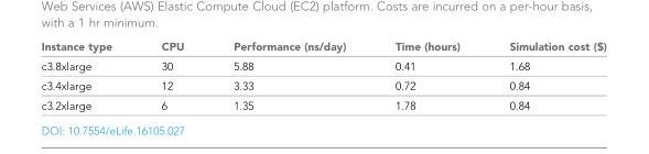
<table><thead><tr><td>Instance type</td><td>CPU</td><td>Performance (ns/day)</td><td>Time (hours)</td><td>Simulation cost ($)</td></tr></thead><tbody><tr><td>c3.8xlarge</td><td>30</td><td>5.88</td><td>0.41</td><td>1.68</td></tr><tr><td>c3.4xlarge</td><td>12</td><td>3.33</td><td>0.72</td><td>0.84</td></tr><tr><td>c3.2xlarge</td><td>6</td><td>1.35</td><td>1.78</td><td>0.84</td></tr></tbody></table>